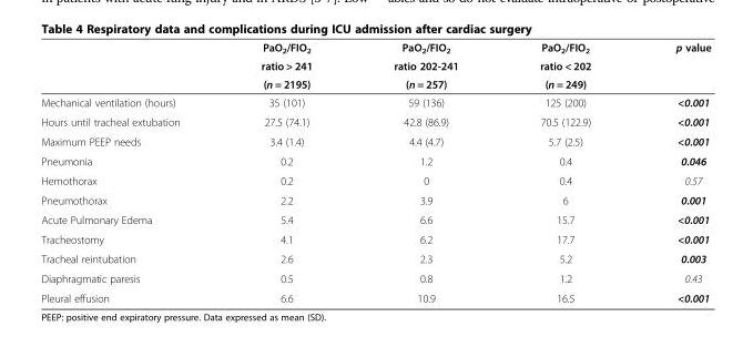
<table><thead><tr><td rowspan="3"></td><td rowspan="3">PaO<sub>2</sub>/FIO<sub>2</sub> ratio &gt; 241 (n = 2195)</td><td rowspan="3">PaO<sub>2</sub>/FIO<sub>2</sub> ratio 202-241 (n = 257)</td><td rowspan="3">PaO<sub>2</sub>/FIO<sub>2</sub> ratio &lt; 202 (n = 249)</td><td rowspan="3">p value</td></tr><tr></tr><tr></tr></thead><tbody><tr><td>Mechanical ventilation (hours)</td><td>35 (101)</td><td>59 (136)</td><td>125 (200)</td><td>&lt;0.001</td></tr><tr><td>Hours until tracheal extubation</td><td>27.5 (74.1)</td><td>42.8 (86.9)</td><td>70.5 (122.9)</td><td>&lt;0.001</td></tr><tr><td>Maximum PEEP needs</td><td>3.4 (1.4)</td><td>4.4 (4.7)</td><td>5.7 (2.5)</td><td>&lt;0.001</td></tr><tr><td>Pneumonia</td><td>0.2</td><td>1.2</td><td>0.4</td><td>0.046</td></tr><tr><td>Hemothorax</td><td>0.2</td><td>0</td><td>0.4</td><td>0.57</td></tr><tr><td>Pneumothorax</td><td>2.2</td><td>3.9</td><td>6</td><td>0.001</td></tr><tr><td>Acute Pulmonary Edema</td><td>5.4</td><td>6.6</td><td>15.7</td><td>&lt;0.001</td></tr><tr><td>Tracheostomy</td><td>4.1</td><td>6.2</td><td>17.7</td><td>&lt;0.001</td></tr><tr><td>Tracheal reintubation</td><td>2.6</td><td>2.3</td><td>5.2</td><td>0.003</td></tr><tr><td>Diaphragmatic paresis</td><td>0.5</td><td>0.8</td><td>1.2</td><td>0.43</td></tr><tr><td>Pleural effusion</td><td>6.6</td><td>10.9</td><td>16.5</td><td>&lt;0.001</td></tr></tbody></table>